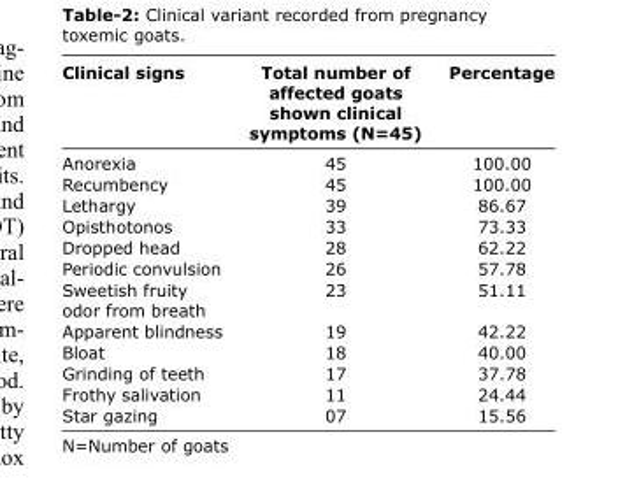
<table><thead><tr><td>Clinical signs</td><td>Total number of affected goats shown clinical symptoms (N=45)</td><td>Percentage</td></tr></thead><tbody><tr><td>Anorexia</td><td>45</td><td>100.00</td></tr><tr><td>Recumbency</td><td>45</td><td>100.00</td></tr><tr><td>Lethargy</td><td>39</td><td>86.67</td></tr><tr><td>Opisthotonos</td><td>33</td><td>73.33</td></tr><tr><td>Dropped head</td><td>28</td><td>62.22</td></tr><tr><td>Periodic convulsion</td><td>26</td><td>57.78</td></tr><tr><td>Sweetish fruity odor from breath</td><td>23</td><td>51.11</td></tr><tr><td>Apparent blindness</td><td>19</td><td>42.22</td></tr><tr><td>Bloat</td><td>18</td><td>40.00</td></tr><tr><td>Grinding of teeth</td><td>17</td><td>37.78</td></tr><tr><td>Frothy salivation</td><td>11</td><td>24.44</td></tr><tr><td>Star gazing</td><td>07</td><td>15.56</td></tr></tbody></table>